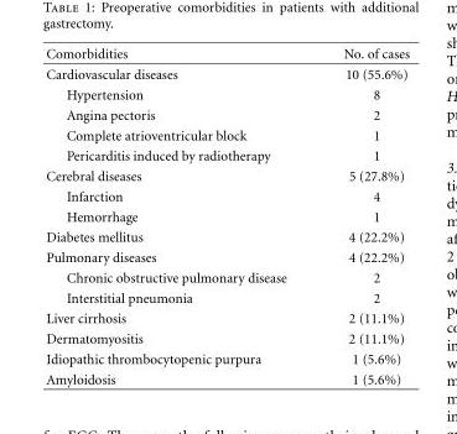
<table><thead><tr><td>Comorbidities</td><td>No. of cases</td></tr></thead><tbody><tr><td>Cardiovascular diseases</td><td>10 (55.6%)</td></tr><tr><td>Hypertension</td><td>8</td></tr><tr><td>Angina pectoris</td><td>2</td></tr><tr><td>Complete atrioventricular block</td><td>1</td></tr><tr><td>Pericarditis induced by radiotherapy</td><td>1</td></tr><tr><td>Cerebral diseases</td><td>5 (27.8%)</td></tr><tr><td>Infarction</td><td>4</td></tr><tr><td>Hemorrhage</td><td>1</td></tr><tr><td>Diabetes mellitus</td><td>4 (22.2%)</td></tr><tr><td>Pulmonary diseases</td><td>4 (22.2%)</td></tr><tr><td>Chronic obstructive pulmonary disease</td><td>2</td></tr><tr><td>Interstitial pneumonia</td><td>2</td></tr><tr><td>Liver cirrhosis</td><td>2 (11.1%)</td></tr><tr><td>Dermatomyositis</td><td>2 (11.1%)</td></tr><tr><td>Idiopathic thrombocytopenic purpura</td><td>1 (5.6%)</td></tr><tr><td>Amyloidosis</td><td>1 (5.6%)</td></tr></tbody></table>